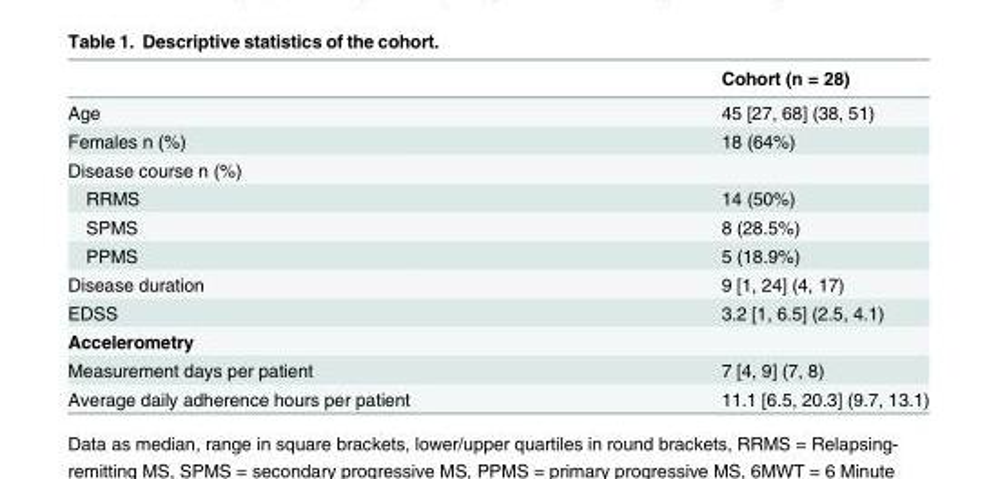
<table><thead><tr><td></td><td>Cohort (n = 28)</td></tr></thead><tbody><tr><td>Age</td><td>45 [27, 68] (38, 51)</td></tr><tr><td>Females n (%)</td><td>18 (64%)</td></tr><tr><td colspan="2">Disease course n (%)</td></tr><tr><td>RRMS</td><td>14 (50%)</td></tr><tr><td>SPMS</td><td>8 (28.5%)</td></tr><tr><td>PPMS</td><td>5 (18.9%)</td></tr><tr><td>Disease duration</td><td>9 [1, 24] (4, 17)</td></tr><tr><td>EDSS</td><td>3.2 [1, 6.5] (2.5, 4.1)</td></tr><tr><td colspan="2">Accelerometry</td></tr><tr><td>Measurement days per patient</td><td>7 [4, 9] (7, 8)</td></tr><tr><td>Average daily adherence hours per patient</td><td>11.1 [6.5, 20.3] (9.7, 13.1)</td></tr></tbody></table>